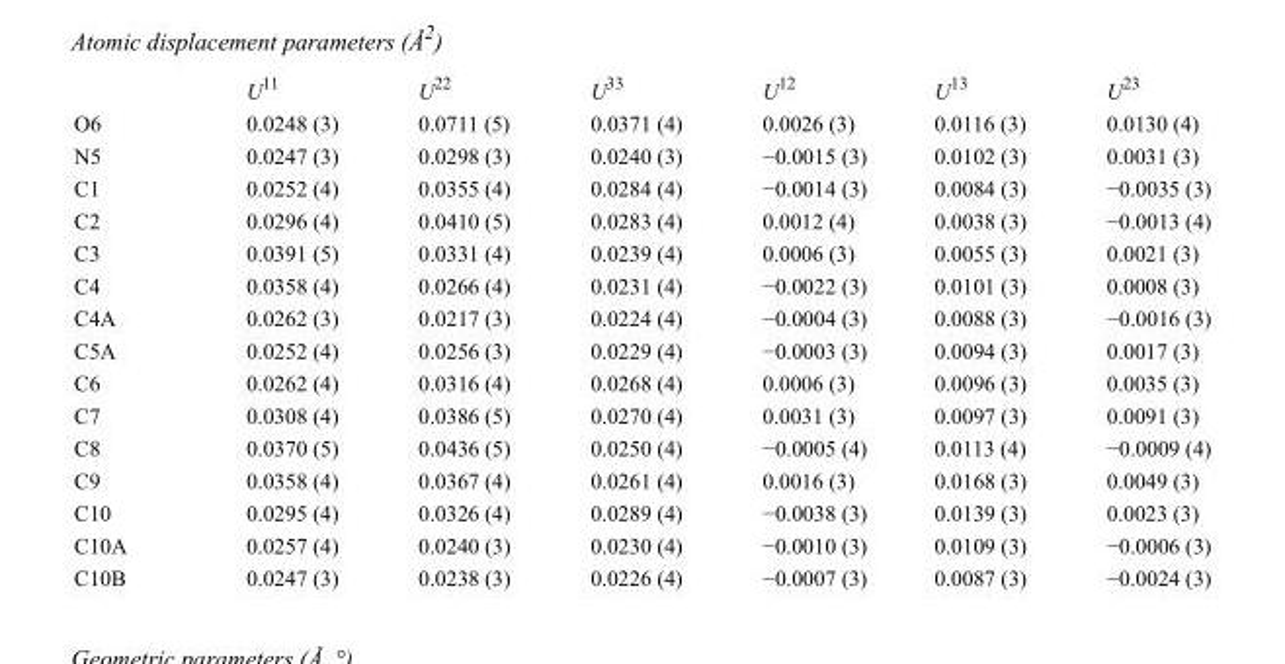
<table><thead><tr><td></td><td>U<sup>11</sup></td><td>U<sup>22</sup></td><td>U<sup>33</sup></td><td>U<sup>12</sup></td><td>U<sup>13</sup></td><td>U<sup>23</sup></td></tr></thead><tbody><tr><td>O6</td><td>0.0248 (3)</td><td>0.0711 (5)</td><td>0.0371 (4)</td><td>0.0026 (3)</td><td>0.0116 (3)</td><td>0.0130 (4)</td></tr><tr><td>N5</td><td>0.0247 (3)</td><td>0.0298 (3)</td><td>0.0240 (3)</td><td>−0.0015 (3)</td><td>0.0102 (3)</td><td>0.0031 (3)</td></tr><tr><td>C1</td><td>0.0252 (4)</td><td>0.0355 (4)</td><td>0.0284 (4)</td><td>−0.0014 (3)</td><td>0.0084 (3)</td><td>−0.0035 (3)</td></tr><tr><td>C2</td><td>0.0296 (4)</td><td>0.0410 (5)</td><td>0.0283 (4)</td><td>0.0012 (4)</td><td>0.0038 (3)</td><td>−0.0013 (4)</td></tr><tr><td>C3</td><td>0.0391 (5)</td><td>0.0331 (4)</td><td>0.0239 (4)</td><td>0.0006 (3)</td><td>0.0055 (3)</td><td>0.0021 (3)</td></tr><tr><td>C4</td><td>0.0358 (4)</td><td>0.0266 (4)</td><td>0.0231 (4)</td><td>−0.0022 (3)</td><td>0.0101 (3)</td><td>0.0008 (3)</td></tr><tr><td>C4A</td><td>0.0262 (3)</td><td>0.0217 (3)</td><td>0.0224 (4)</td><td>−0.0004 (3)</td><td>0.0088 (3)</td><td>−0.0016 (3)</td></tr><tr><td>C5A</td><td>0.0252 (4)</td><td>0.0256 (3)</td><td>0.0229 (4)</td><td>−0.0003 (3)</td><td>0.0094 (3)</td><td>0.0017 (3)</td></tr><tr><td>C6</td><td>0.0262 (4)</td><td>0.0316 (4)</td><td>0.0268 (4)</td><td>0.0006 (3)</td><td>0.0096 (3)</td><td>0.0035 (3)</td></tr><tr><td>C7</td><td>0.0308 (4)</td><td>0.0386 (5)</td><td>0.0270 (4)</td><td>0.0031 (3)</td><td>0.0097 (3)</td><td>0.0091 (3)</td></tr><tr><td>C8</td><td>0.0370 (5)</td><td>0.0436 (5)</td><td>0.0250 (4)</td><td>−0.0005 (4)</td><td>0.0113 (4)</td><td>−0.0009 (4)</td></tr><tr><td>C9</td><td>0.0358 (4)</td><td>0.0367 (4)</td><td>0.0261 (4)</td><td>0.0016 (3)</td><td>0.0168 (3)</td><td>0.0049 (3)</td></tr><tr><td>C10</td><td>0.0295 (4)</td><td>0.0326 (4)</td><td>0.0289 (4)</td><td>−0.0038 (3)</td><td>0.0139 (3)</td><td>0.0023 (3)</td></tr><tr><td>C10A</td><td>0.0257 (4)</td><td>0.0240 (3)</td><td>0.0230 (4)</td><td>−0.0010 (3)</td><td>0.0109 (3)</td><td>−0.0006 (3)</td></tr><tr><td>C10B</td><td>0.0247 (3)</td><td>0.0238 (3)</td><td>0.0226 (4)</td><td>−0.0007 (3)</td><td>0.0087 (3)</td><td>−0.0024 (3)</td></tr></tbody></table>